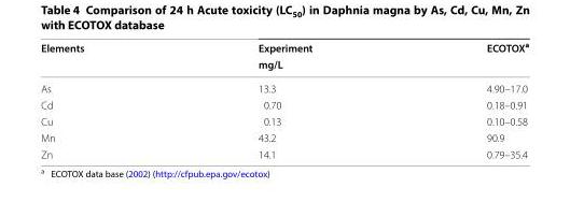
<table><thead><tr><td rowspan="2">Elements</td><td>Experiment</td><td>ECOTOX<sup>a</sup></td></tr><tr><td colspan="2">mg/L</td></tr></thead><tbody><tr><td>As</td><td>13.3</td><td>4.90–17.0</td></tr><tr><td>Cd</td><td>0.70</td><td>0.18–0.91</td></tr><tr><td>Cu</td><td>0.13</td><td>0.10–0.58</td></tr><tr><td>Mn</td><td>43.2</td><td>90.9</td></tr><tr><td>Zn</td><td>14.1</td><td>0.79–35.4</td></tr></tbody></table>